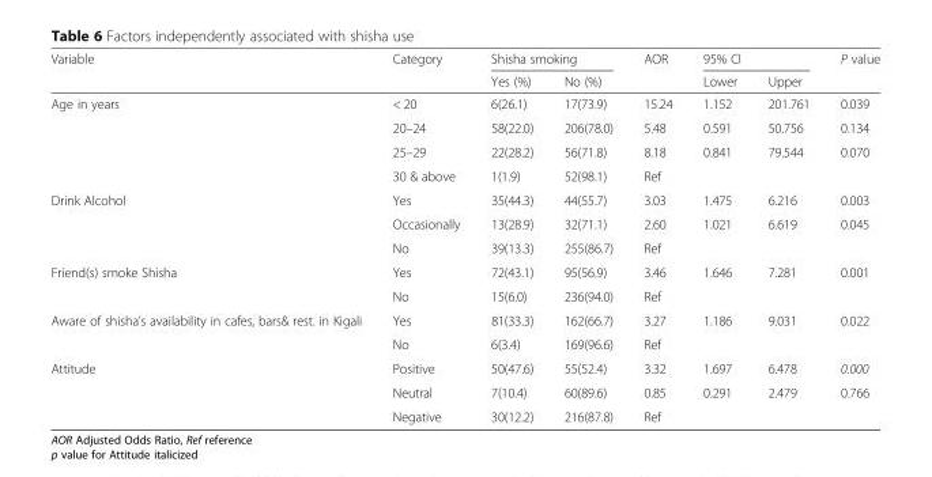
<table><thead><tr><td rowspan="2">Variable</td><td rowspan="2">Category</td><td colspan="2">Shisha smoking</td><td rowspan="2">AOR</td><td colspan="2">95% CI</td><td rowspan="2">P value</td></tr><tr><td>Yes (%)</td><td>No (%)</td><td>Lower</td><td>Upper</td></tr></thead><tbody><tr><td rowspan="4">Age in years</td><td>&lt; 20</td><td>6(26.1)</td><td>17(73.9)</td><td>15.24</td><td>1.152</td><td>201.761</td><td>0.039</td></tr><tr><td>20–24</td><td>58(22.0)</td><td>206(78.0)</td><td>5.48</td><td>0.591</td><td>50.756</td><td>0.134</td></tr><tr><td>25–29</td><td>22(28.2)</td><td>56(71.8)</td><td>8.18</td><td>0.841</td><td>79.544</td><td>0.070</td></tr><tr><td>30 &amp; above</td><td>1(1.9)</td><td>52(98.1)</td><td>Ref</td><td></td><td></td><td></td></tr><tr><td rowspan="3">Drink Alcohol</td><td>Yes</td><td>35(44.3)</td><td>44(55.7)</td><td>3.03</td><td>1.475</td><td>6.216</td><td>0.003</td></tr><tr><td>Occasionally</td><td>13(28.9)</td><td>32(71.1)</td><td>2.60</td><td>1.021</td><td>6.619</td><td>0.045</td></tr><tr><td>No</td><td>39(13.3)</td><td>255(86.7)</td><td>Ref</td><td></td><td></td><td></td></tr><tr><td rowspan="2">Friend(s) smoke Shisha</td><td>Yes</td><td>72(43.1)</td><td>95(56.9)</td><td>3.46</td><td>1.646</td><td>7.281</td><td>0.001</td></tr><tr><td>No</td><td>15(6.0)</td><td>236(94.0)</td><td>Ref</td><td></td><td></td><td></td></tr><tr><td rowspan="2">Aware of shisha’s availability in cafes, bars&amp; rest. in Kigali</td><td>Yes</td><td>81(33.3)</td><td>162(66.7)</td><td>3.27</td><td>1.186</td><td>9.031</td><td>0.022</td></tr><tr><td>No</td><td>6(3.4)</td><td>169(96.6)</td><td>Ref</td><td></td><td></td><td></td></tr><tr><td rowspan="3">Attitude</td><td>Positive</td><td>50(47.6)</td><td>55(52.4)</td><td>3.32</td><td>1.697</td><td>6.478</td><td>0.000</td></tr><tr><td>Neutral</td><td>7(10.4)</td><td>60(89.6)</td><td>0.85</td><td>0.291</td><td>2.479</td><td>0.766</td></tr><tr><td>Negative</td><td>30(12.2)</td><td>216(87.8)</td><td>Ref</td><td></td><td></td><td></td></tr></tbody></table>